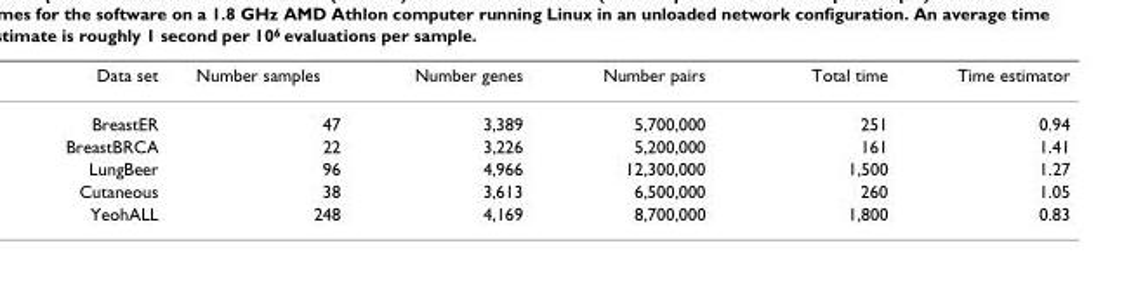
<table><thead><tr><td>Data set</td><td>Number samples</td><td>Number genes</td><td>Number pairs</td><td>Total time</td><td>Time estimator</td></tr></thead><tbody><tr><td>BreastER</td><td>47</td><td>3,389</td><td>5,700,000</td><td>251</td><td>0.94</td></tr><tr><td>BreastBRCA</td><td>22</td><td>3,226</td><td>5,200,000</td><td>161</td><td>1.41</td></tr><tr><td>LungBeer</td><td>96</td><td>4,966</td><td>12,300,000</td><td>1,500</td><td>1.27</td></tr><tr><td>Cutaneous</td><td>38</td><td>3,613</td><td>6,500,000</td><td>260</td><td>1.05</td></tr><tr><td>YeohALL</td><td>248</td><td>4,169</td><td>8,700,000</td><td>1,800</td><td>0.83</td></tr></tbody></table>